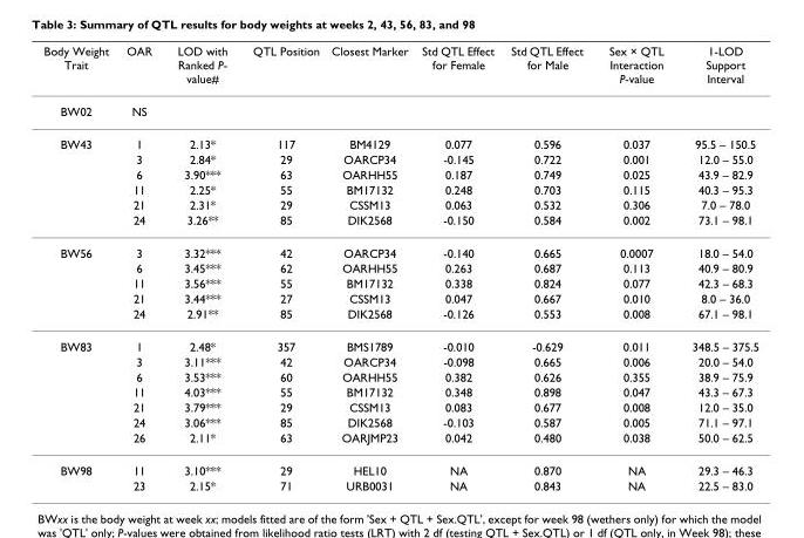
<table><thead><tr><td>Body Weight Trait</td><td>OAR</td><td>LOD with Ranked P- value#</td><td>QTL Position</td><td>Closest Marker</td><td>Std QTL Effect for Female</td><td>Std QTL Effect for Male</td><td>Sex × QTL Interaction P-value</td><td>1-LOD Support Interval</td></tr></thead><tbody><tr><td>BW02</td><td>NS</td><td></td><td></td><td></td><td></td><td></td><td></td><td></td></tr><tr><td rowspan="6">BW43</td><td>1</td><td>2.13*</td><td>117</td><td>BM4129</td><td>0.077</td><td>0.596</td><td>0.037</td><td>95.5 – 150.5</td></tr><tr><td>3</td><td>2.84*</td><td>29</td><td>OARCP34</td><td>-0.145</td><td>0.722</td><td>0.001</td><td>12.0 – 55.0</td></tr><tr><td>6</td><td>3.90***</td><td>63</td><td>OARHH55</td><td>0.187</td><td>0.749</td><td>0.025</td><td>43.9 – 82.9</td></tr><tr><td>11</td><td>2.25*</td><td>55</td><td>BM17132</td><td>0.248</td><td>0.703</td><td>0.115</td><td>40.3 – 95.3</td></tr><tr><td>21</td><td>2.31*</td><td>29</td><td>CSSM13</td><td>0.063</td><td>0.532</td><td>0.306</td><td>7.0 – 78.0</td></tr><tr><td>24</td><td>3.26**</td><td>85</td><td>DIK2568</td><td>-0.150</td><td>0.584</td><td>0.002</td><td>73.1 – 98.1</td></tr><tr><td rowspan="5">BW56</td><td>3</td><td>3.32***</td><td>42</td><td>OARCP34</td><td>-0.140</td><td>0.665</td><td>0.0007</td><td>18.0 – 54.0</td></tr><tr><td>6</td><td>3.45***</td><td>62</td><td>OARHH55</td><td>0.263</td><td>0.687</td><td>0.113</td><td>40.9 – 80.9</td></tr><tr><td>11</td><td>3.56***</td><td>55</td><td>BM17132</td><td>0.338</td><td>0.824</td><td>0.077</td><td>42.3 – 68.3</td></tr><tr><td>21</td><td>3.44***</td><td>27</td><td>CSSM13</td><td>0.047</td><td>0.667</td><td>0.010</td><td>8.0 – 36.0</td></tr><tr><td>24</td><td>2.91**</td><td>85</td><td>DIK2568</td><td>-0.126</td><td>0.553</td><td>0.008</td><td>67.1 – 98.1</td></tr><tr><td rowspan="7">BW83</td><td>1</td><td>2.48*</td><td>357</td><td>BMS1789</td><td>-0.010</td><td>-0.629</td><td>0.011</td><td>348.5 – 375.5</td></tr><tr><td>3</td><td>3.11***</td><td>42</td><td>OARCP34</td><td>-0.098</td><td>0.665</td><td>0.006</td><td>20.0 – 54.0</td></tr><tr><td>6</td><td>3.53***</td><td>60</td><td>OARHH55</td><td>0.382</td><td>0.626</td><td>0.355</td><td>38.9 – 75.9</td></tr><tr><td>11</td><td>4.03***</td><td>55</td><td>BM17132</td><td>0.348</td><td>0.898</td><td>0.047</td><td>43.3 – 67.3</td></tr><tr><td>21</td><td>3.79***</td><td>29</td><td>CSSM13</td><td>0.083</td><td>0.677</td><td>0.008</td><td>12.0 – 35.0</td></tr><tr><td>24</td><td>3.06***</td><td>85</td><td>DIK2568</td><td>-0.103</td><td>0.587</td><td>0.005</td><td>71.1 – 97.1</td></tr><tr><td>26</td><td>2.11*</td><td>63</td><td>OARJMP23</td><td>0.042</td><td>0.480</td><td>0.038</td><td>50.0 – 62.5</td></tr><tr><td rowspan="2">BW98</td><td>11</td><td>3.10***</td><td>29</td><td>HEL10</td><td>NA</td><td>0.870</td><td>NA</td><td>29.3 – 46.3</td></tr><tr><td>23</td><td>2.15*</td><td>71</td><td>URB0031</td><td>NA</td><td>0.843</td><td>NA</td><td>22.5 – 83.0</td></tr></tbody></table>